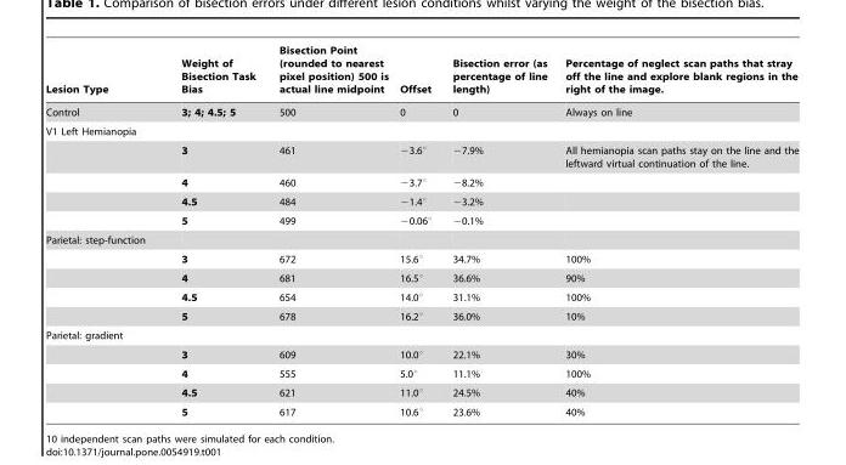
<table><thead><tr><td>Lesion Type</td><td>Weight of Bisection Task Bias</td><td>Bisection Point (rounded to nearest pixel position) 500 is actual line midpoint</td><td>Offset</td><td>Bisection error (as percentage of line length)</td><td>Percentage of neglect scan paths that stray off the line and explore blank regions in the right of the image.</td></tr></thead><tbody><tr><td>Control</td><td>3; 4; 4.5; 5</td><td>500</td><td>0</td><td>0</td><td>Always on line</td></tr><tr><td colspan="6">V1 Left Hemianopia</td></tr><tr><td></td><td>3</td><td>461</td><td>−3.6°</td><td>−7.9%</td><td>All hemianopia scan paths stay on the line and the leftward virtual continuation of the line.</td></tr><tr><td></td><td>4</td><td>460</td><td>−3.7°</td><td>−8.2%</td><td></td></tr><tr><td></td><td>4.5</td><td>484</td><td>−1.4°</td><td>−3.2%</td><td></td></tr><tr><td></td><td>5</td><td>499</td><td>−0.06°</td><td>−0.1%</td><td></td></tr><tr><td colspan="6">Parietal: step-function</td></tr><tr><td></td><td>3</td><td>672</td><td>15.6°</td><td>34.7%</td><td>100%</td></tr><tr><td></td><td>4</td><td>681</td><td>16.5°</td><td>36.6%</td><td>90%</td></tr><tr><td></td><td>4.5</td><td>654</td><td>14.0°</td><td>31.1%</td><td>100%</td></tr><tr><td></td><td>5</td><td>678</td><td>16.2°</td><td>36.0%</td><td>10%</td></tr><tr><td colspan="6">Parietal: gradient</td></tr><tr><td></td><td>3</td><td>609</td><td>10.0°</td><td>22.1%</td><td>30%</td></tr><tr><td></td><td>4</td><td>555</td><td>5.0°</td><td>11.1%</td><td>100%</td></tr><tr><td></td><td>4.5</td><td>621</td><td>11.0°</td><td>24.5%</td><td>40%</td></tr><tr><td></td><td>5</td><td>617</td><td>10.6°</td><td>23.6%</td><td>40%</td></tr></tbody></table>